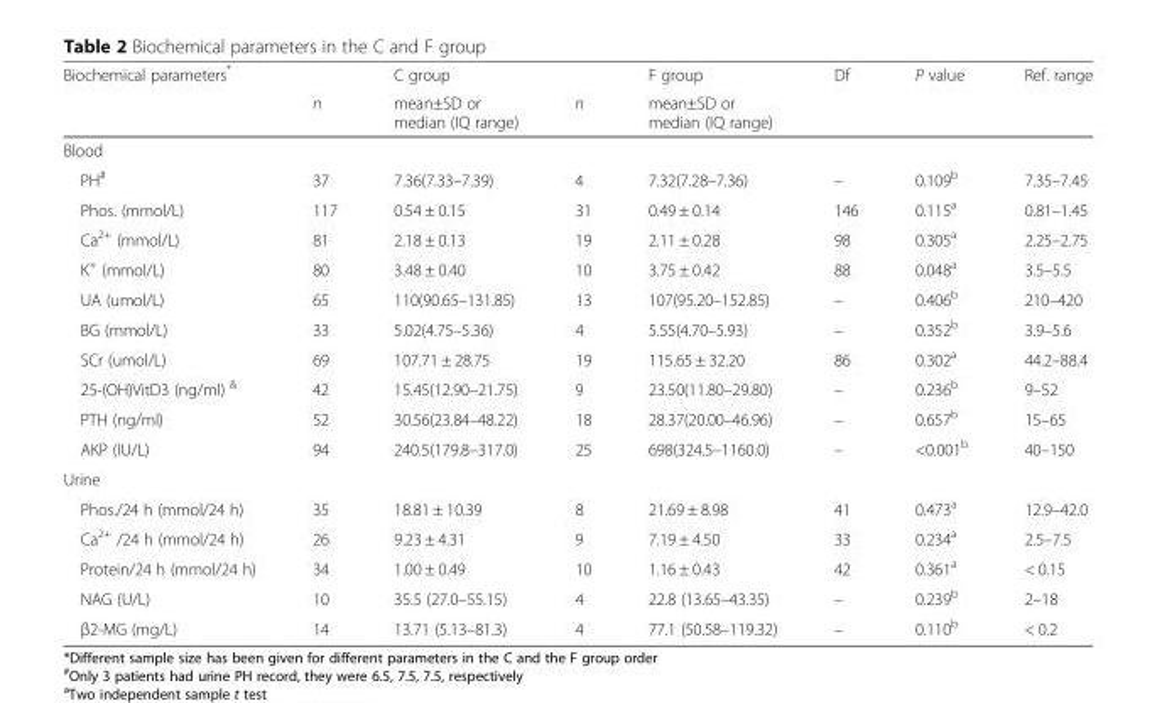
<table><thead><tr><td rowspan="2">Biochemical parameters*</td><td rowspan="2">n</td><td rowspan="2">C group mean±SD or median (IQ range)</td><td rowspan="2">n</td><td rowspan="2">F group mean±SD or median (IQ range)</td><td rowspan="2">Df</td><td rowspan="2">P value</td><td rowspan="2">Ref. range</td></tr><tr></tr></thead><tbody><tr><td colspan="8">Blood</td></tr><tr><td>PH<sup>#</sup></td><td>37</td><td>7.36(7.33–7.39)</td><td>4</td><td>7.32(7.28–7.36)</td><td>–</td><td>0.109<sup>b</sup></td><td>7.35–7.45</td></tr><tr><td>Phos. (mmol/L)</td><td>117</td><td>0.54 ± 0.15</td><td>31</td><td>0.49 ± 0.14</td><td>146</td><td>0.115<sup>a</sup></td><td>0.81–1.45</td></tr><tr><td>Ca<sup>2+</sup> (mmol/L)</td><td>81</td><td>2.18 ± 0.13</td><td>19</td><td>2.11 ± 0.28</td><td>98</td><td>0.305<sup>a</sup></td><td>2.25–2.75</td></tr><tr><td>K<sup>+</sup> (mmol/L)</td><td>80</td><td>3.48 ± 0.40</td><td>10</td><td>3.75 ± 0.42</td><td>88</td><td>0.048<sup>a</sup></td><td>3.5–5.5</td></tr><tr><td>UA (umol/L)</td><td>65</td><td>110(90.65–131.85)</td><td>13</td><td>107(95.20–152.85)</td><td>–</td><td>0.406<sup>b</sup></td><td>210–420</td></tr><tr><td>BG (mmol/L)</td><td>33</td><td>5.02(4.75–5.36)</td><td>4</td><td>5.55(4.70–5.93)</td><td>–</td><td>0.352<sup>b</sup></td><td>3.9–5.6</td></tr><tr><td>SCr (umol/L)</td><td>69</td><td>107.71 ± 28.75</td><td>19</td><td>115.65 ± 32.20</td><td>86</td><td>0.302<sup>a</sup></td><td>44.2–88.4</td></tr><tr><td>25-(OH)VitD3 (ng/ml) <sup>&amp;</sup></td><td>42</td><td>15.45(12.90–21.75)</td><td>9</td><td>23.50(11.80–29.80)</td><td>–</td><td>0.236<sup>b</sup></td><td>9–52</td></tr><tr><td>PTH (ng/ml)</td><td>52</td><td>30.56(23.84–48.22)</td><td>18</td><td>28.37(20.00–46.96)</td><td>–</td><td>0.657<sup>b</sup></td><td>15–65</td></tr><tr><td>AKP (IU/L)</td><td>94</td><td>240.5(179.8–317.0)</td><td>25</td><td>698(324.5–1160.0)</td><td>–</td><td>&lt;0.001<sup>b</sup></td><td>40–150</td></tr><tr><td colspan="8">Urine</td></tr><tr><td>Phos./24 h (mmol/24 h)</td><td>35</td><td>18.81 ± 10.39</td><td>8</td><td>21.69 ± 8.98</td><td>41</td><td>0.473<sup>a</sup></td><td>12.9–42.0</td></tr><tr><td>Ca<sup>2+</sup> /24 h (mmol/24 h)</td><td>26</td><td>9.23 ± 4.31</td><td>9</td><td>7.19 ± 4.50</td><td>33</td><td>0.234<sup>a</sup></td><td>2.5–7.5</td></tr><tr><td>Protein/24 h (mmol/24 h)</td><td>34</td><td>1.00 ± 0.49</td><td>10</td><td>1.16 ± 0.43</td><td>42</td><td>0.361<sup>a</sup></td><td>&lt; 0.15</td></tr><tr><td>NAG (U/L)</td><td>10</td><td>35.5 (27.0–55.15)</td><td>4</td><td>22.8 (13.65–43.35)</td><td>–</td><td>0.239<sup>b</sup></td><td>2–18</td></tr><tr><td>β2-MG (mg/L)</td><td>14</td><td>13.71 (5.13–81.3)</td><td>4</td><td>77.1 (50.58–119.32)</td><td>–</td><td>0.110<sup>b</sup></td><td>&lt; 0.2</td></tr></tbody></table>